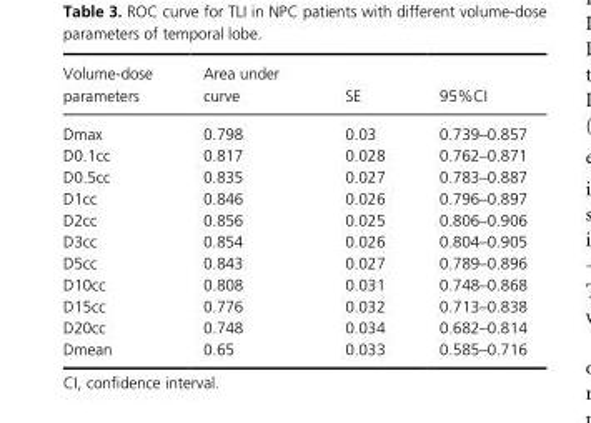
<table><thead><tr><td>Volume- dose parameters</td><td>Area under curve</td><td>SE</td><td>95%CI</td></tr></thead><tbody><tr><td>Dmax</td><td>0.798</td><td>0.03</td><td>0.739–0.857</td></tr><tr><td>D0.1cc</td><td>0.817</td><td>0.028</td><td>0.762–0.871</td></tr><tr><td>D0.5cc</td><td>0.835</td><td>0.027</td><td>0.783–0.887</td></tr><tr><td>D1cc</td><td>0.846</td><td>0.026</td><td>0.796–0.897</td></tr><tr><td>D2cc</td><td>0.856</td><td>0.025</td><td>0.806–0.906</td></tr><tr><td>D3cc</td><td>0.854</td><td>0.026</td><td>0.804–0.905</td></tr><tr><td>D5cc</td><td>0.843</td><td>0.027</td><td>0.789–0.896</td></tr><tr><td>D10cc</td><td>0.808</td><td>0.031</td><td>0.748–0.868</td></tr><tr><td>D15cc</td><td>0.776</td><td>0.032</td><td>0.713–0.838</td></tr><tr><td>D20cc</td><td>0.748</td><td>0.034</td><td>0.682–0.814</td></tr><tr><td>Dmean</td><td>0.65</td><td>0.033</td><td>0.585–0.716</td></tr></tbody></table>